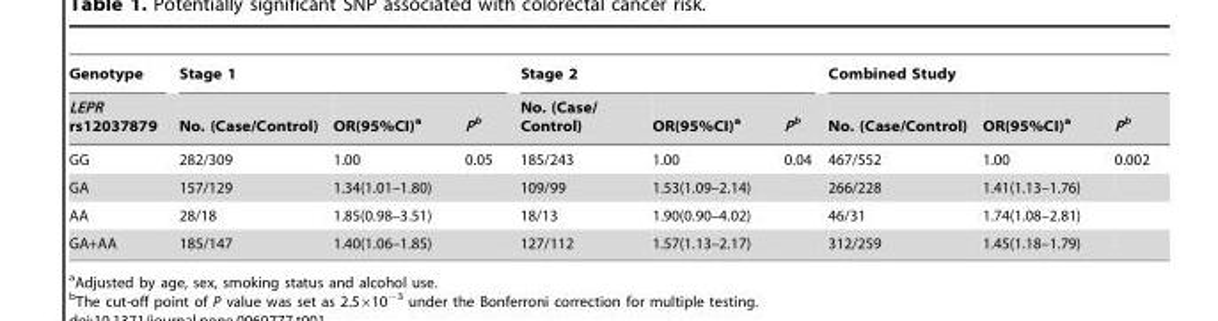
<table><thead><tr><td rowspan="2">Genotype LEPR rs12037879</td><td colspan="3">Stage 1</td><td colspan="3">Stage 2</td><td colspan="3">Combined Study</td></tr><tr><td>No. (Case/Control)</td><td>OR(95%CI)<sup>a</sup></td><td>Pb</td><td>No. (Case/ Control)</td><td>OR(95%CI)<sup>a</sup></td><td>Pb</td><td>No. (Case/Control)</td><td>OR(95%CI)<sup>a</sup></td><td>Pb</td></tr></thead><tbody><tr><td>GG</td><td>282/309</td><td>1.00</td><td>0.05</td><td>185/243</td><td>1.00</td><td>0.04</td><td>467/552</td><td>1.00</td><td>0.002</td></tr><tr><td>GA</td><td>157/129</td><td>1.34(1.01–1.80)</td><td></td><td>109/99</td><td>1.53(1.09–2.14)</td><td></td><td>266/228</td><td>1.41(1.13–1.76)</td><td></td></tr><tr><td>AA</td><td>28/18</td><td>1.85(0.98–3.51)</td><td></td><td>18/13</td><td>1.90(0.90–4.02)</td><td></td><td>46/31</td><td>1.74(1.08–2.81)</td><td></td></tr><tr><td>GA+AA</td><td>185/147</td><td>1.40(1.06–1.85)</td><td></td><td>127/112</td><td>1.57(1.13–2.17)</td><td></td><td>312/259</td><td>1.45(1.18–1.79)</td><td></td></tr></tbody></table>